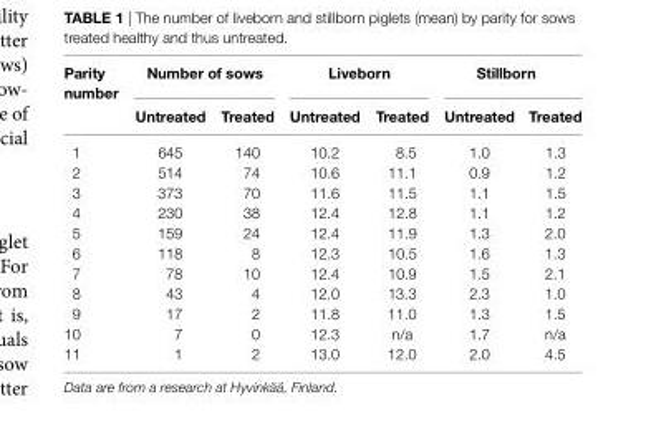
<table><thead><tr><td rowspan="2">Parity number</td><td colspan="2">number of sows</td><td colspan="2">liveborn</td><td colspan="2">stillborn</td></tr><tr><td>Untreated</td><td>Treated</td><td>Untreated</td><td>Treated</td><td>Untreated</td><td>Treated</td></tr></thead><tbody><tr><td>1</td><td>645</td><td>140</td><td>10.2</td><td>8.5</td><td>1.0</td><td>1.3</td></tr><tr><td>2</td><td>514</td><td>74</td><td>10.6</td><td>11.1</td><td>0.9</td><td>1.2</td></tr><tr><td>3</td><td>373</td><td>70</td><td>11.6</td><td>11.5</td><td>1.1</td><td>1.5</td></tr><tr><td>4</td><td>230</td><td>38</td><td>12.4</td><td>12.8</td><td>1.1</td><td>1.2</td></tr><tr><td>5</td><td>159</td><td>24</td><td>12.4</td><td>11.9</td><td>1.3</td><td>2.0</td></tr><tr><td>6</td><td>118</td><td>8</td><td>12.3</td><td>10.5</td><td>1.6</td><td>1.3</td></tr><tr><td>7</td><td>78</td><td>10</td><td>12.4</td><td>10.9</td><td>1.5</td><td>2.1</td></tr><tr><td>8</td><td>43</td><td>4</td><td>12.0</td><td>13.3</td><td>2.3</td><td>1.0</td></tr><tr><td>9</td><td>17</td><td>2</td><td>11.8</td><td>11.0</td><td>1.3</td><td>1.5</td></tr><tr><td>10</td><td>7</td><td>0</td><td>12.3</td><td>n/a</td><td>1.7</td><td>n/a</td></tr><tr><td>11</td><td>1</td><td>2</td><td>13.0</td><td>12.0</td><td>2.0</td><td>4.5</td></tr></tbody></table>